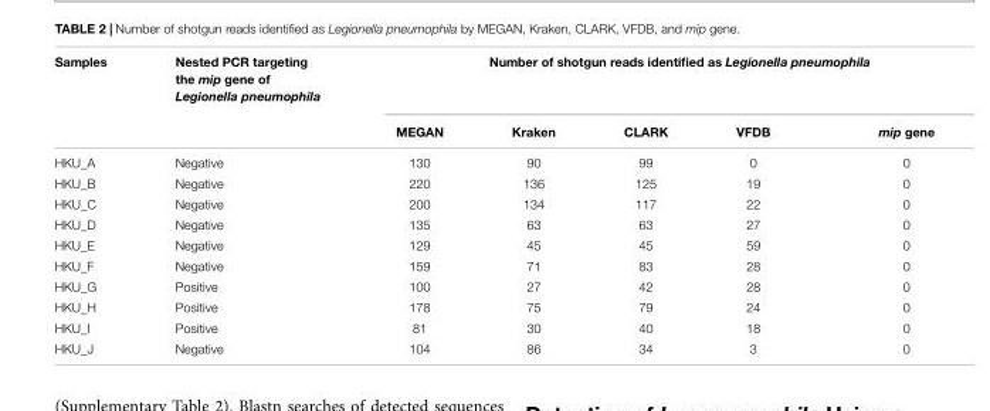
<table><thead><tr><td rowspan="2">Samples</td><td rowspan="2">Nested PCR targeting the mip gene of Legionella pneumophila</td><td colspan="5">Number of shotgun reads identified as Legionella pneumophila</td></tr><tr><td>MEGAN</td><td>Kraken</td><td>CLARK</td><td>VFDB</td><td>mip gene</td></tr></thead><tbody><tr><td>HKU_A</td><td>Negative</td><td>130</td><td>90</td><td>99</td><td>0</td><td>0</td></tr><tr><td>HKU_B</td><td>Negative</td><td>220</td><td>136</td><td>125</td><td>19</td><td>0</td></tr><tr><td>HKU_C</td><td>Negative</td><td>200</td><td>134</td><td>117</td><td>22</td><td>0</td></tr><tr><td>HKU_D</td><td>Negative</td><td>135</td><td>63</td><td>63</td><td>27</td><td>0</td></tr><tr><td>HKU_E</td><td>Negative</td><td>129</td><td>45</td><td>45</td><td>59</td><td>0</td></tr><tr><td>HKU_F</td><td>Negative</td><td>159</td><td>71</td><td>83</td><td>28</td><td>0</td></tr><tr><td>HKU_G</td><td>Positive</td><td>100</td><td>27</td><td>42</td><td>28</td><td>0</td></tr><tr><td>HKU_H</td><td>Positive</td><td>178</td><td>75</td><td>79</td><td>24</td><td>0</td></tr><tr><td>HKU_I</td><td>Positive</td><td>81</td><td>30</td><td>40</td><td>18</td><td>0</td></tr><tr><td>HKU_J</td><td>Negative</td><td>104</td><td>86</td><td>34</td><td>3</td><td>0</td></tr></tbody></table>